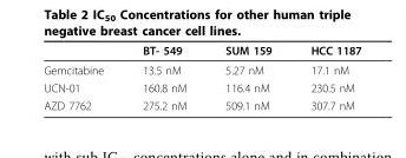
<table><thead><tr><td></td><td>BT- 549</td><td>SUM 159</td><td>HCC 1187</td></tr></thead><tbody><tr><td>Gemcitabine</td><td>13.5 nM</td><td>5.27 nM</td><td>17.1 nM</td></tr><tr><td>UCN-01</td><td>160.8 nM</td><td>116.4 nM</td><td>230.5 nM</td></tr><tr><td>AZD 7762</td><td>275.2 nM</td><td>509.1 nM</td><td>307.7 nM</td></tr></tbody></table>